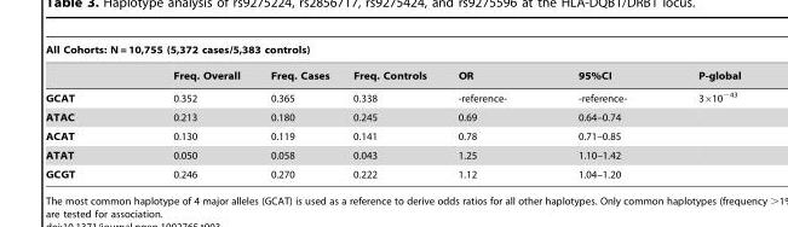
<table><thead><tr><td colspan="7">All Cohorts: N = 10,755 (5,372 cases/5,383 controls)</td></tr><tr><td></td><td>Freq. Overall</td><td>Freq. Cases</td><td>Freq. Controls</td><td>OR</td><td>95%CI</td><td>P-global</td></tr></thead><tbody><tr><td>GCAT</td><td>0.352</td><td>0.365</td><td>0.338</td><td>-reference-</td><td>-reference-</td><td>3×10<sup>−43</sup></td></tr><tr><td>ATAC</td><td>0.213</td><td>0.180</td><td>0.245</td><td>0.69</td><td>0.64–0.74</td><td></td></tr><tr><td>ACAT</td><td>0.130</td><td>0.119</td><td>0.141</td><td>0.78</td><td>0.71–0.85</td><td></td></tr><tr><td>ATAT</td><td>0.050</td><td>0.058</td><td>0.043</td><td>1.25</td><td>1.10–1.42</td><td></td></tr><tr><td>GCGT</td><td>0.246</td><td>0.270</td><td>0.222</td><td>1.12</td><td>1.04–1.20</td><td></td></tr></tbody></table>